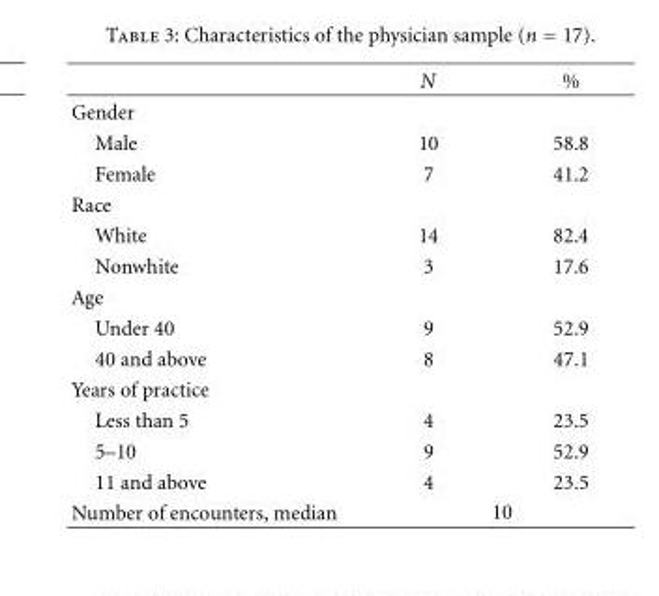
<table><thead><tr><td></td><td>N</td><td>%</td></tr></thead><tbody><tr><td colspan="3">Gender</td></tr><tr><td>Male</td><td>10</td><td>58.8</td></tr><tr><td>Female</td><td>7</td><td>41.2</td></tr><tr><td colspan="3">Race</td></tr><tr><td>White</td><td>14</td><td>82.4</td></tr><tr><td>Nonwhite</td><td>3</td><td>17.6</td></tr><tr><td colspan="3">Age</td></tr><tr><td>Under 40</td><td>9</td><td>52.9</td></tr><tr><td>40 and above</td><td>8</td><td>47.1</td></tr><tr><td colspan="3">Years of practice</td></tr><tr><td>Less than 5</td><td>4</td><td>23.5</td></tr><tr><td>5–10</td><td>9</td><td>52.9</td></tr><tr><td>11 and above</td><td>4</td><td>23.5</td></tr><tr><td>Number of encounters, median</td><td colspan="2">10</td></tr></tbody></table>